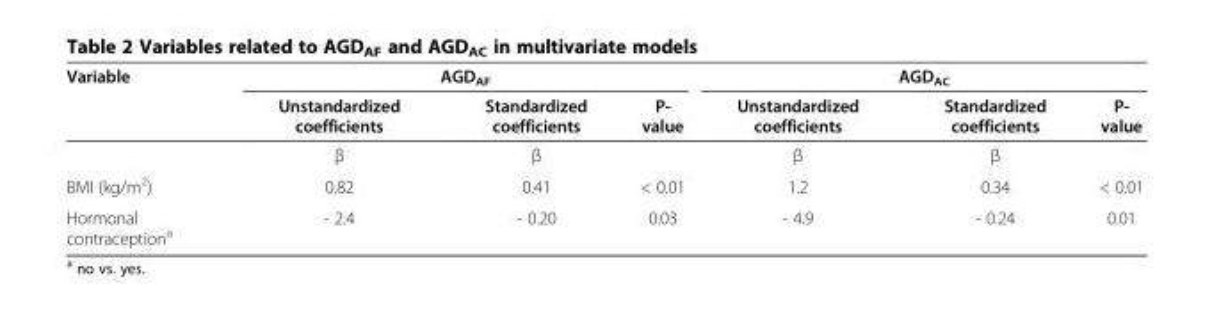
<table><thead><tr><td rowspan="2">Variable</td><td colspan="3">AGD<sub>AF</sub></td><td colspan="3">AGD<sub>AC</sub></td></tr><tr><td>Unstandardized coefficients</td><td>Standardized coefficients</td><td>P- value</td><td>Unstandardized coefficients</td><td>Standardized coefficients</td><td>P- value</td></tr></thead><tbody><tr><td></td><td>β</td><td>β</td><td></td><td>β</td><td>β</td><td></td></tr><tr><td>BMI (kg/m<sup>2</sup>)</td><td>0.82</td><td>0.41</td><td>&lt; 0.01</td><td>1.2</td><td>0.34</td><td>&lt; 0.01</td></tr><tr><td>Hormonal contraception<sup>a</sup></td><td>- 2.4</td><td>- 0.20</td><td>0.03</td><td>- 4.9</td><td>- 0.24</td><td>0.01</td></tr></tbody></table>